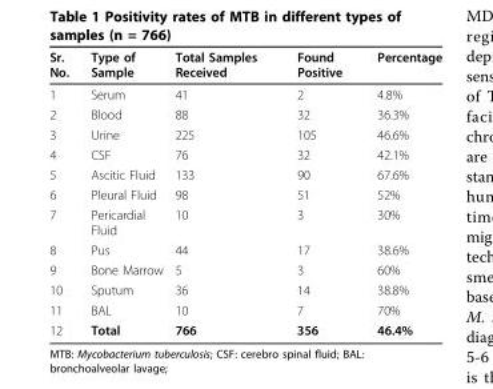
<table><thead><tr><td>Sr. No.</td><td>Type of Sample</td><td>Total Samples Received</td><td>Found Positive</td><td>Percentage</td></tr></thead><tbody><tr><td>1</td><td>Serum</td><td>41</td><td>2</td><td>4.8%</td></tr><tr><td>2</td><td>Blood</td><td>88</td><td>32</td><td>36.3%</td></tr><tr><td>3</td><td>Urine</td><td>225</td><td>105</td><td>46.6%</td></tr><tr><td>4</td><td>CSF</td><td>76</td><td>32</td><td>42.1%</td></tr><tr><td>5</td><td>Ascitic Fluid</td><td>133</td><td>90</td><td>67.6%</td></tr><tr><td>6</td><td>Pleural Fluid</td><td>98</td><td>51</td><td>52%</td></tr><tr><td>7</td><td>Pericardial Fluid</td><td>10</td><td>3</td><td>30%</td></tr><tr><td>8</td><td>Pus</td><td>44</td><td>17</td><td>38.6%</td></tr><tr><td>9</td><td>Bone Marrow</td><td>5</td><td>3</td><td>60%</td></tr><tr><td>10</td><td>Sputum</td><td>36</td><td>14</td><td>38.8%</td></tr><tr><td>11</td><td>BAL</td><td>10</td><td>7</td><td>70%</td></tr><tr><td>12</td><td>Total</td><td>766</td><td>356</td><td>46.4%</td></tr></tbody></table>